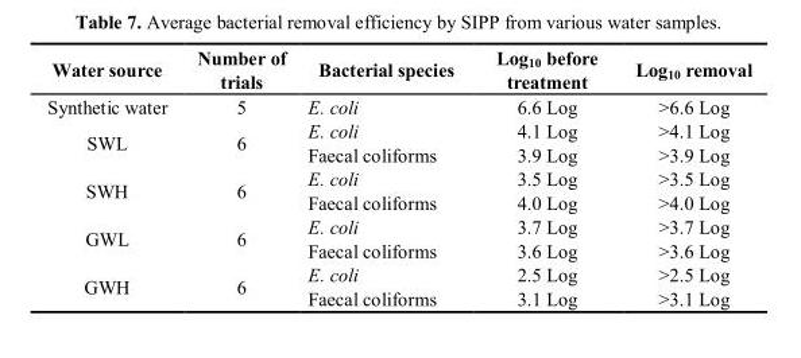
<table><thead><tr><td>Water source</td><td>Number of trials</td><td>Bacterial species</td><td>Log<sub>10</sub> before treatment</td><td>Log<sub>10</sub> removal</td></tr></thead><tbody><tr><td>Synthetic water</td><td>5</td><td>E. coli</td><td>6.6 Log</td><td>&gt;6.6 Log</td></tr><tr><td rowspan="2">SWL</td><td rowspan="2">6</td><td>E. coli</td><td>4.1 Log</td><td>&gt;4.1 Log</td></tr><tr><td>Faecal coliforms</td><td>3.9 Log</td><td>&gt;3.9 Log</td></tr><tr><td rowspan="2">SWH</td><td rowspan="2">6</td><td>E. coli</td><td>3.5 Log</td><td>&gt;3.5 Log</td></tr><tr><td>Faecal coliforms</td><td>4.0 Log</td><td>&gt;4.0 Log</td></tr><tr><td rowspan="2">GWL</td><td rowspan="2">6</td><td>E. coli</td><td>3.7 Log</td><td>&gt;3.7 Log</td></tr><tr><td>Faecal coliforms</td><td>3.6 Log</td><td>&gt;3.6 Log</td></tr><tr><td rowspan="2">GWH</td><td rowspan="2">6</td><td>E. coli</td><td>2.5 Log</td><td>&gt;2.5 Log</td></tr><tr><td>Faecal coliforms</td><td>3.1 Log</td><td>&gt;3.1 Log</td></tr></tbody></table>